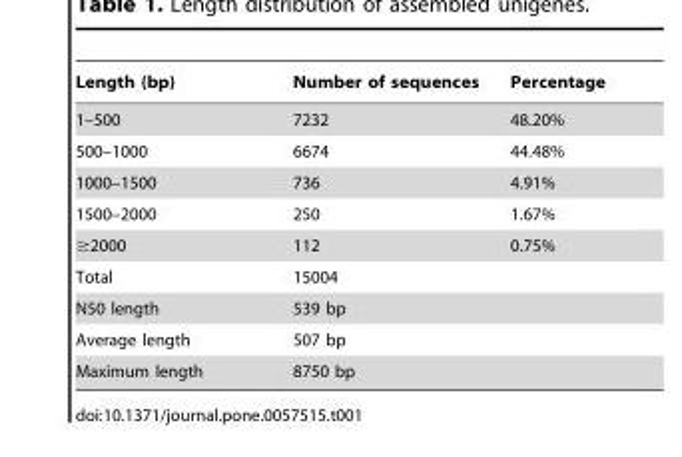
<table><thead><tr><td>Length (bp)</td><td>Number of sequences</td><td>Percentage</td></tr></thead><tbody><tr><td>1–500</td><td>7232</td><td>48.20%</td></tr><tr><td>500–1000</td><td>6674</td><td>44.48%</td></tr><tr><td>1000–1500</td><td>736</td><td>4.91%</td></tr><tr><td>1500–2000</td><td>250</td><td>1.67%</td></tr><tr><td>≥2000</td><td>112</td><td>0.75%</td></tr><tr><td>Total</td><td>15004</td><td></td></tr><tr><td>N50 length</td><td>539 bp</td><td></td></tr><tr><td>Average length</td><td>507 bp</td><td></td></tr><tr><td>Maximum length</td><td>8750 bp</td><td></td></tr></tbody></table>